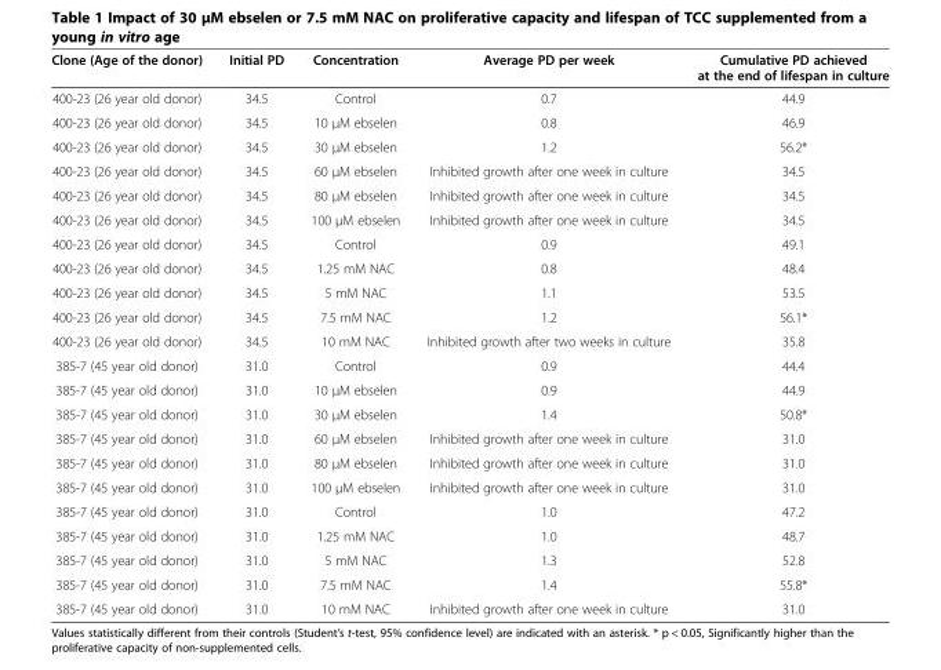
<table><thead><tr><td>Clone (Age of the donor)</td><td>Initial PD</td><td>Concentration</td><td>Average PD per week</td><td>Cumulative PD achieved at the end of lifespan in culture</td></tr></thead><tbody><tr><td>400-23 (26 year old donor)</td><td>34.5</td><td>Control</td><td>0.7</td><td>44.9</td></tr><tr><td>400-23 (26 year old donor)</td><td>34.5</td><td>10 μM ebselen</td><td>0.8</td><td>46.9</td></tr><tr><td>400-23 (26 year old donor)</td><td>34.5</td><td>30 μM ebselen</td><td>1.2</td><td>56.2*</td></tr><tr><td>400-23 (26 year old donor)</td><td>34.5</td><td>60 μM ebselen</td><td>Inhibited growth after one week in culture</td><td>34.5</td></tr><tr><td>400-23 (26 year old donor)</td><td>34.5</td><td>80 μM ebselen</td><td>Inhibited growth after one week in culture</td><td>34.5</td></tr><tr><td>400-23 (26 year old donor)</td><td>34.5</td><td>100 μM ebselen</td><td>Inhibited growth after one week in culture</td><td>34.5</td></tr><tr><td>400-23 (26 year old donor)</td><td>34.5</td><td>Control</td><td>0.9</td><td>49.1</td></tr><tr><td>400-23 (26 year old donor)</td><td>34.5</td><td>1.25 mM NAC</td><td>0.8</td><td>48.4</td></tr><tr><td>400-23 (26 year old donor)</td><td>34.5</td><td>5 mM NAC</td><td>1.1</td><td>53.5</td></tr><tr><td>400-23 (26 year old donor)</td><td>34.5</td><td>7.5 mM NAC</td><td>1.2</td><td>56.1*</td></tr><tr><td>400-23 (26 year old donor)</td><td>34.5</td><td>10 mM NAC</td><td>Inhibited growth after two weeks in culture</td><td>35.8</td></tr><tr><td>385-7 (45 year old donor)</td><td>31.0</td><td>Control</td><td>0.9</td><td>44.4</td></tr><tr><td>385-7 (45 year old donor)</td><td>31.0</td><td>10 μM ebselen</td><td>0.9</td><td>44.9</td></tr><tr><td>385-7 (45 year old donor)</td><td>31.0</td><td>30 μM ebselen</td><td>1.4</td><td>50.8*</td></tr><tr><td>385-7 (45 year old donor)</td><td>31.0</td><td>60 μM ebselen</td><td>Inhibited growth after one week in culture</td><td>31.0</td></tr><tr><td>385-7 (45 year old donor)</td><td>31.0</td><td>80 μM ebselen</td><td>Inhibited growth after one week in culture</td><td>31.0</td></tr><tr><td>385-7 (45 year old donor)</td><td>31.0</td><td>100 μM ebselen</td><td>Inhibited growth after one week in culture</td><td>31.0</td></tr><tr><td>385-7 (45 year old donor)</td><td>31.0</td><td>Control</td><td>1.0</td><td>47.2</td></tr><tr><td>385-7 (45 year old donor)</td><td>31.0</td><td>1.25 mM NAC</td><td>1.0</td><td>48.7</td></tr><tr><td>385-7 (45 year old donor)</td><td>31.0</td><td>5 mM NAC</td><td>1.3</td><td>52.8</td></tr><tr><td>385-7 (45 year old donor)</td><td>31.0</td><td>7.5 mM NAC</td><td>1.4</td><td>55.8*</td></tr><tr><td>385-7 (45 year old donor)</td><td>31.0</td><td>10 mM NAC</td><td>Inhibited growth after one week in culture</td><td>31.0</td></tr></tbody></table>